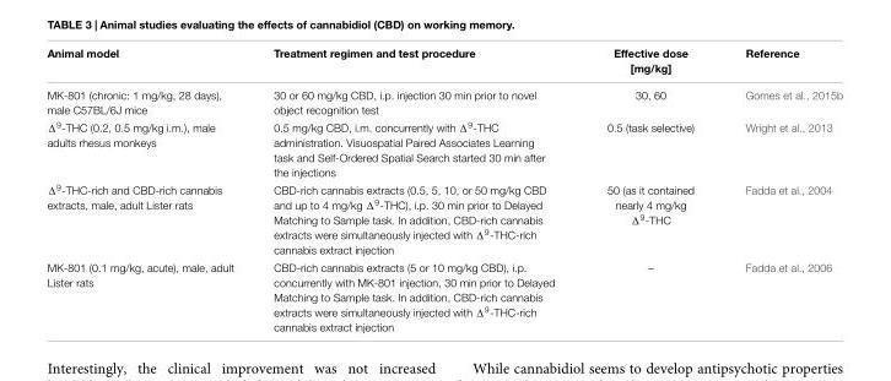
<table><thead><tr><td>Animal model</td><td>Treatment regimen and test procedure</td><td>Effective dose [mg/kg]</td><td>Reference</td></tr></thead><tbody><tr><td>MK-801 (chronic: 1 mg/kg, 28 days), male C57BL/6J mice</td><td>30 or 60 mg/kg CBD, i.p. injection 30 min prior to novel object recognition test</td><td>30, 60</td><td>Gomes et al., 2015b</td></tr><tr><td>Δ<sup>9</sup>-THC (0.2, 0.5 mg/kg i.m.), male adults rhesus monkeys</td><td>0.5 mg/kg CBD, i.m. concurrently with Δ<sup>9</sup>-THC administration. Visuospatial Paired Associates Learning task and Self-Ordered Spatial Search started 30 min after the injections</td><td>0.5 (task selective)</td><td>Wright et al., 2013</td></tr><tr><td>Δ<sup>9</sup>-THC-rich and CBD-rich cannabis extracts, male, adult Lister rats</td><td>CBD-rich cannabis extracts (0.5, 5, 10, or 50 mg/kg CBD and up to 4 mg/kg Δ<sup>9</sup>-THC), i.p. 30 min prior to Delayed Matching to Sample task. In addition, CBD-rich cannabis extracts were simultaneously injected with Δ<sup>9</sup>-THC-rich cannabis extract injection</td><td>50 (as it contained nearly 4 mg/kg Δ<sup>9</sup>-THC</td><td>Fadda et al., 2004</td></tr><tr><td>MK-801 (0.1 mg/kg, acute), male, adult Lister rats</td><td>CBD-rich cannabis extracts (5 or 10 mg/kg CBD), i.p. concurrently with MK-801 injection, 30 min prior to Delayed Matching to Sample task. In addition, CBD-rich cannabis extracts were simultaneously injected with Δ<sup>9</sup>-THC-rich cannabis extract injection</td><td>–</td><td>Fadda et al., 2006</td></tr></tbody></table>